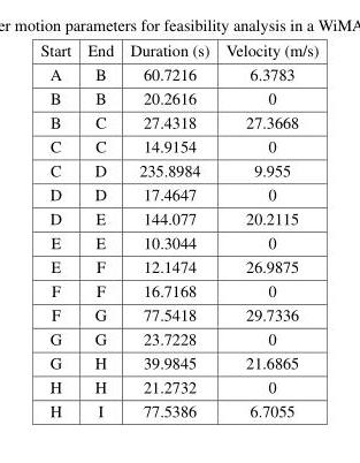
<table><thead><tr><td>Start</td><td>End</td><td>Duration (s)</td><td>Velocity (m/s)</td></tr></thead><tbody><tr><td>A</td><td>B</td><td>60.7216</td><td>6.3783</td></tr><tr><td>B</td><td>B</td><td>20.2616</td><td>0</td></tr><tr><td>B</td><td>C</td><td>27.4318</td><td>27.3668</td></tr><tr><td>C</td><td>C</td><td>14.9154</td><td>0</td></tr><tr><td>C</td><td>D</td><td>235.8984</td><td>9.955</td></tr><tr><td>D</td><td>D</td><td>17.4647</td><td>0</td></tr><tr><td>D</td><td>E</td><td>144.077</td><td>20.2115</td></tr><tr><td>E</td><td>E</td><td>10.3044</td><td>0</td></tr><tr><td>E</td><td>F</td><td>12.1474</td><td>26.9875</td></tr><tr><td>F</td><td>F</td><td>16.7168</td><td>0</td></tr><tr><td>F</td><td>G</td><td>77.5418</td><td>29.7336</td></tr><tr><td>G</td><td>G</td><td>23.7228</td><td>0</td></tr><tr><td>G</td><td>H</td><td>39.9845</td><td>21.6865</td></tr><tr><td>H</td><td>H</td><td>21.2732</td><td>0</td></tr><tr><td>H</td><td>I</td><td>77.5386</td><td>6.7055</td></tr></tbody></table>